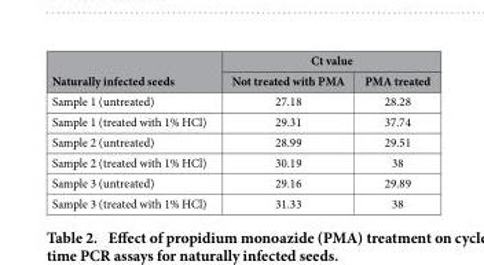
<table><thead><tr><td rowspan="2">Naturally infected seeds</td><td colspan="2">Ct value</td></tr><tr><td>Not treated with PMA</td><td>PMA treated</td></tr></thead><tbody><tr><td>Sample 1 (untreated)</td><td>27.18</td><td>28.28</td></tr><tr><td>Sample 1 (treated with 1% HCl)</td><td>29.31</td><td>37.74</td></tr><tr><td>Sample 2 (untreated)</td><td>28.99</td><td>29.51</td></tr><tr><td>Sample 2 (treated with 1% HCl)</td><td>30.19</td><td>38</td></tr><tr><td>Sample 3 (untreated)</td><td>29.16</td><td>29.89</td></tr><tr><td>Sample 3 (treated with 1% HCl)</td><td>31.33</td><td>38</td></tr></tbody></table>